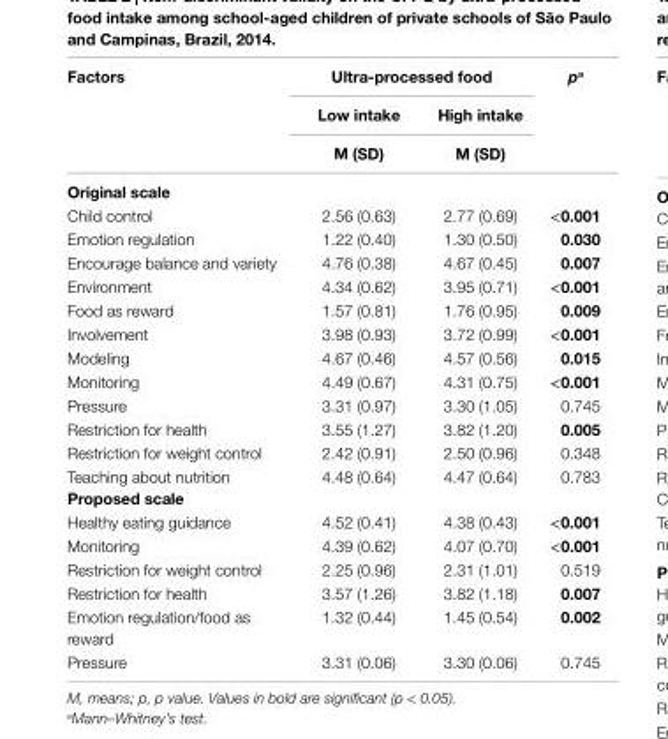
<table><thead><tr><td rowspan="3">Factors</td><td colspan="2">Ultra-processed food</td><td rowspan="3">p<sup>a</sup></td></tr><tr><td rowspan="2">low intake M (sD)</td><td rowspan="2">high intake M (sD)</td></tr><tr></tr></thead><tbody><tr><td colspan="4">Original scale</td></tr><tr><td>Child control</td><td>2.56 (0.63)</td><td>2.77 (0.69)</td><td>&lt;0.001</td></tr><tr><td>Emotion regulation</td><td>1.22 (0.40)</td><td>1.30 (0.50)</td><td>0.030</td></tr><tr><td>Encourage balance and variety</td><td>4.76 (0.38)</td><td>4.67 (0.45)</td><td>0.007</td></tr><tr><td>Environment</td><td>4.34 (0.62)</td><td>3.95 (0.71)</td><td>&lt;0.001</td></tr><tr><td>Food as reward</td><td>1.57 (0.81)</td><td>1.76 (0.95)</td><td>0.009</td></tr><tr><td>Involvement</td><td>3.98 (0.93)</td><td>3.72 (0.99)</td><td>&lt;0.001</td></tr><tr><td>Modeling</td><td>4.67 (0.46)</td><td>4.57 (0.56)</td><td>0.015</td></tr><tr><td>Monitoring</td><td>4.49 (0.67)</td><td>4.31 (0.75)</td><td>&lt;0.001</td></tr><tr><td>Pressure</td><td>3.31 (0.97)</td><td>3.30 (1.05)</td><td>0.745</td></tr><tr><td>Restriction for health</td><td>3.55 (1.27)</td><td>3.82 (1.20)</td><td>0.005</td></tr><tr><td>Restriction for weight control</td><td>2.42 (0.91)</td><td>2.50 (0.96)</td><td>0.348</td></tr><tr><td>Teaching about nutrition</td><td>4.48 (0.64)</td><td>4.47 (0.64)</td><td>0.783</td></tr><tr><td colspan="4">Proposed scale</td></tr><tr><td>Healthy eating guidance</td><td>4.52 (0.41)</td><td>4.38 (0.43)</td><td>&lt;0.001</td></tr><tr><td>Monitoring</td><td>4.39 (0.62)</td><td>4.07 (0.70)</td><td>&lt;0.001</td></tr><tr><td>Restriction for weight control</td><td>2.25 (0.96)</td><td>2.31 (1.01)</td><td>0.519</td></tr><tr><td>Restriction for health</td><td>3.57 (1.26)</td><td>3.82 (1.18)</td><td>0.007</td></tr><tr><td>Emotion regulation/food as reward</td><td>1.32 (0.44)</td><td>1.45 (0.54)</td><td>0.002</td></tr><tr><td>Pressure</td><td>3.31 (0.06)</td><td>3.30 (0.06)</td><td>0.745</td></tr></tbody></table>